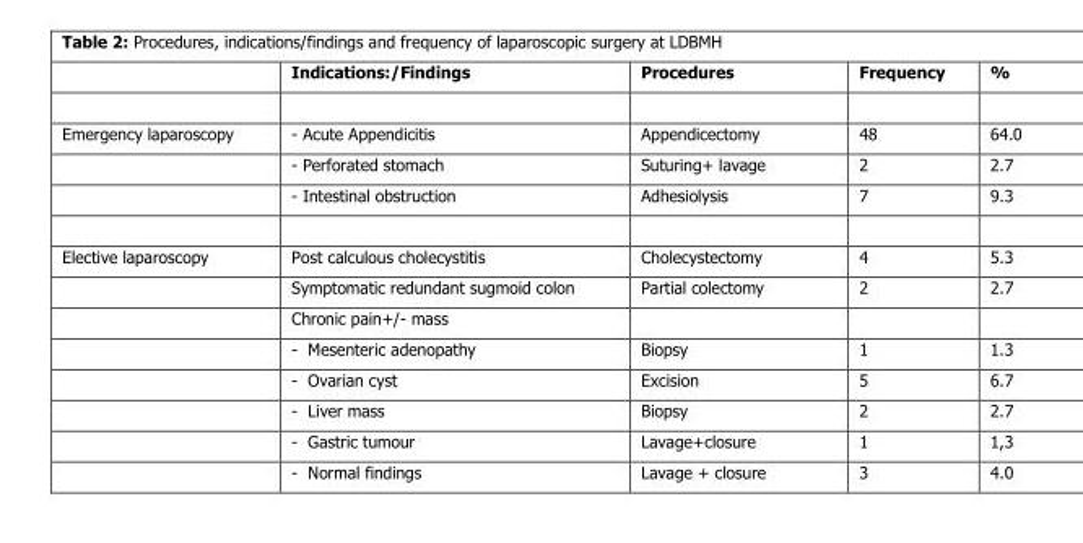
<table><thead><tr><td></td><td>Indications:/Findings</td><td>Procedures</td><td>Frequency</td><td>%</td></tr></thead><tbody><tr><td rowspan="3">Emergency laparoscopy</td><td>- Acute Appendicitis</td><td>Appendicectomy</td><td>48</td><td>64.0</td></tr><tr><td>- Perforated stomach</td><td>Suturing+ lavage</td><td>2</td><td>2.7</td></tr><tr><td>- Intestinal obstruction</td><td>Adhesiolysis</td><td>7</td><td>9.3</td></tr><tr><td rowspan="8">Elective laparoscopy</td><td>Post calculous cholecystitis</td><td>Cholecystectomy</td><td>4</td><td>5.3</td></tr><tr><td>Symptomatic redundant sugmoid colon</td><td>Partial colectomy</td><td>2</td><td>2.7</td></tr><tr><td>Chronic pain+/- mass</td><td></td><td></td><td></td></tr><tr><td>- Mesenteric adenopathy</td><td>Biopsy</td><td>1</td><td>1.3</td></tr><tr><td>- Ovarian cyst</td><td>Excision</td><td>5</td><td>6.7</td></tr><tr><td>- Liver mass</td><td>Biopsy</td><td>2</td><td>2.7</td></tr><tr><td>- Gastric tumour</td><td>Lavage+closure</td><td>1</td><td>1,3</td></tr><tr><td>- Normal findings</td><td>Lavage + closure</td><td>3</td><td>4.0</td></tr></tbody></table>